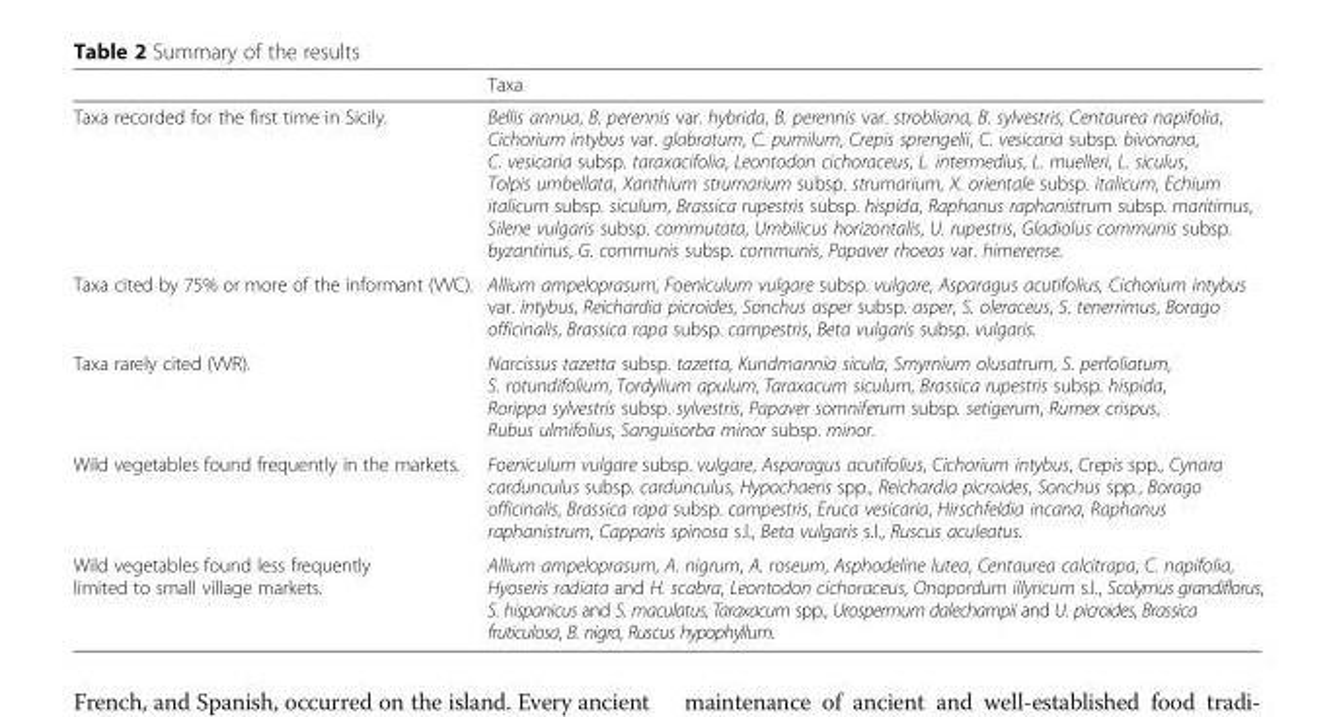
<table><thead><tr><td></td><td>Taxa</td></tr></thead><tbody><tr><td>Taxa recorded for the first time in Sicily.</td><td>Bellis annua, B. perennis var. hybrida, B. perennis var. strobliana, B. sylvestris, Centaurea napifolia, Cichorium intybus var. glabratum, C. pumilum, Crepis sprengelii, C. vesicaria subsp. bivonana, C. vesicaria subsp. taraxacifolia, Leontodon cichoraceus, L. intermedius, L. muelleri, L. siculus, Tolpis umbellata, Xanthium strumarium subsp. strumarium, X. orientale subsp. italicum, Echium italicum subsp. siculum, Brassica rupestris subsp. hispida, Raphanus raphanistrum subsp. maritimus, Silene vulgaris subsp. commutata, Umbilicus horizontalis, U. rupestris, Gladiolus communis subsp. byzantinus, G. communis subsp. communis, Papaver rhoeas var. himerense.</td></tr><tr><td>Taxa cited by 75% or more of the informant (VVC).</td><td>Allium ampeloprasum, Foeniculum vulgare subsp. vulgare, Asparagus acutifolius, Cichorium intybus var. intybus, Reichardia picroides, Sonchus asper subsp. asper, S. oleraceus, S. tenerrimus, Borago officinalis, Brassica rapa subsp. campestris, Beta vulgaris subsp. vulgaris.</td></tr><tr><td>Taxa rarely cited (VVR).</td><td>Narcissus tazetta subsp. tazetta, Kundmannia sicula, Smyrnium olusatrum, S. perfoliatum, S. rotundifolium, Tordylium apulum, Taraxacum siculum, Brassica rupestris subsp. hispida, Rorippa sylvestris subsp. sylvestris, Papaver somniferum subsp. setigerum, Rumex crispus, Rubus ulmifolius, Sanguisorba minor subsp. minor.</td></tr><tr><td>Wild vegetables found frequently in the markets.</td><td>Foeniculum vulgare subsp. vulgare, Asparagus acutifolius, Cichorium intybus, Crepis spp., Cynara cardunculus subsp. cardunculus, Hypochaeris spp., Reichardia picroides, Sonchus spp., Borago officinalis, Brassica rapa subsp. campestris, Eruca vesicaria, Hirschfeldia incana, Raphanus raphanistrum, Capparis spinosa s.l., Beta vulgaris s.l., Ruscus aculeatus.</td></tr><tr><td>Wild vegetables found less frequently limited to small village markets.</td><td>Allium ampeloprasum, A. nigrum, A. roseum, Asphodeline lutea, Centaurea calcitrapa, C. napifolia, Hyoseris radiata and H. scabra, Leontodon cichoraceus, Onopordum illyricum s.l., Scolymus grandiflorus, S. hispanicus and S. maculatus, Taraxacum spp., Urospermum dalechampii and U. picroides, Brassica fruticulosa, B. nigra, Ruscus hypophyllum.</td></tr></tbody></table>